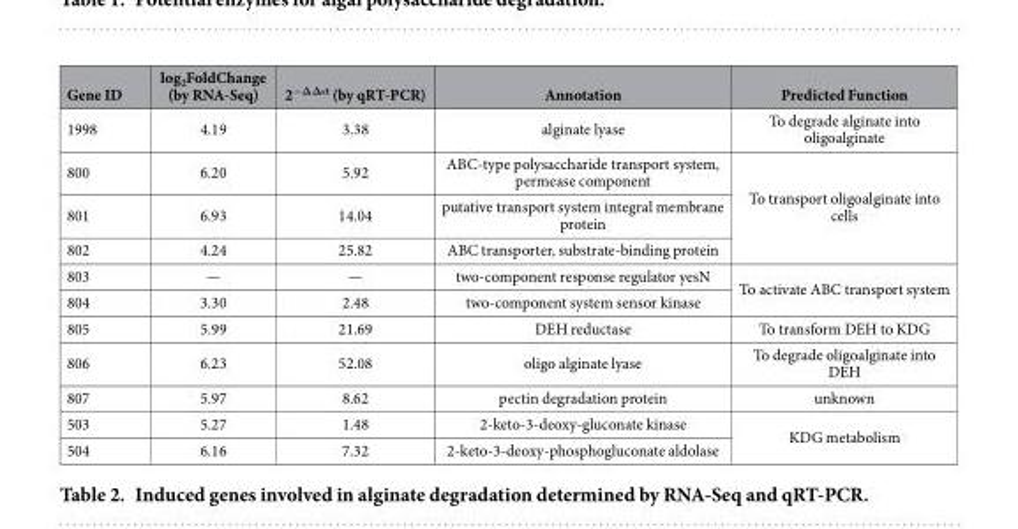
<table><thead><tr><td>Gene ID</td><td>log<sub>2</sub>FoldChange (by RNA-Seq)</td><td>2<sup>−ΔΔct</sup> (by qRT-PCR)</td><td>Annotation</td><td>Predicted Function</td></tr></thead><tbody><tr><td>1998</td><td>4.19</td><td>3.38</td><td>alginate lyase</td><td>To degrade alginate into oligoalginate</td></tr><tr><td>800</td><td>6.20</td><td>5.92</td><td>ABC-type polysaccharide transport system, permease component</td><td rowspan="3">To transport oligoalginate into cells</td></tr><tr><td>801</td><td>6.93</td><td>14.04</td><td>putative transport system integral membrane protein</td></tr><tr><td>802</td><td>4.24</td><td>25.82</td><td>ABC transporter, substrate-binding protein</td></tr><tr><td>803</td><td>—</td><td>—</td><td>two-component response regulator yesN</td><td rowspan="2">To activate ABC transport system</td></tr><tr><td>804</td><td>3.30</td><td>2.48</td><td>two-component system sensor kinase</td></tr><tr><td>805</td><td>5.99</td><td>21.69</td><td>DEH reductase</td><td>To transform DEH to KDG</td></tr><tr><td>806</td><td>6.23</td><td>52.08</td><td>oligo alginate lyase</td><td>To degrade oligoalginate into DEH</td></tr><tr><td>807</td><td>5.97</td><td>8.62</td><td>pectin degradation protein</td><td>unknown</td></tr><tr><td>503</td><td>5.27</td><td>1.48</td><td>2-keto-3-deoxy-gluconate kinase</td><td rowspan="2">KDG metabolism</td></tr><tr><td>504</td><td>6.16</td><td>7.32</td><td>2-keto-3-deoxy-phosphogluconate aldolase</td></tr></tbody></table>